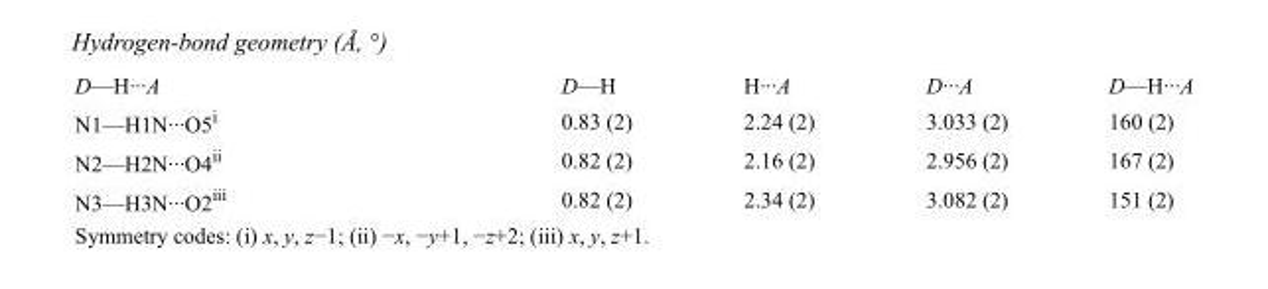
<table><tbody><tr><td>D—H···A</td><td>D—H</td><td>H···A</td><td>D···A</td><td>D—H···A</td></tr><tr><td>N1—H1N···O5<sup>i</sup></td><td>0.83 (2)</td><td>2.24 (2)</td><td>3.033 (2)</td><td>160 (2)</td></tr><tr><td>N2—H2N···O4<sup>ii</sup></td><td>0.82 (2)</td><td>2.16 (2)</td><td>2.956 (2)</td><td>167 (2)</td></tr><tr><td>N3—H3N···O2<sup>iii</sup></td><td>0.82 (2)</td><td>2.34 (2)</td><td>3.082 (2)</td><td>151 (2)</td></tr></tbody></table>